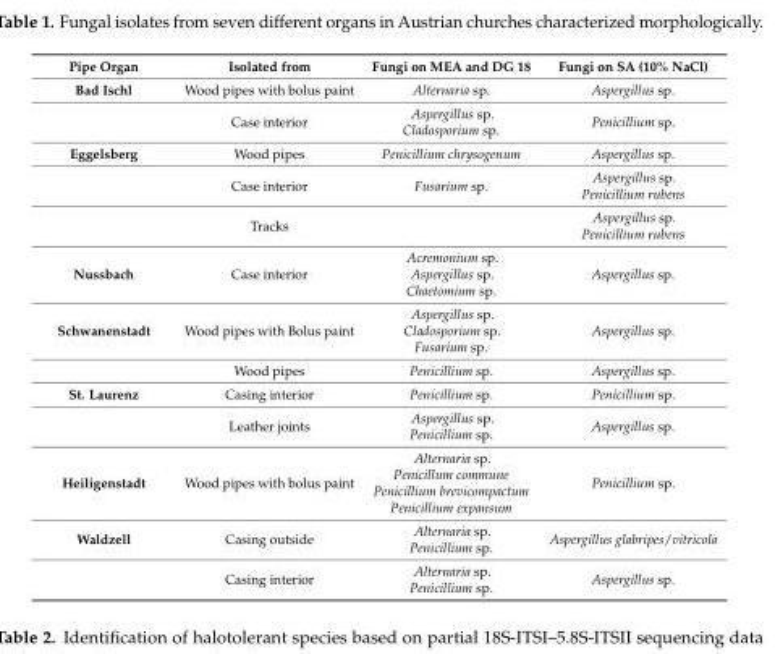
<table><thead><tr><td>Pipe Organ</td><td>Isolated from</td><td>Fungi on MEA and DG 18</td><td>Fungi on SA (10% NaCl)</td></tr></thead><tbody><tr><td rowspan="2">Bad Ischl</td><td>Wood pipes with bolus paint</td><td>Alternaria sp.</td><td>Aspergillus sp.</td></tr><tr><td>Case interior</td><td>Aspergillus sp. Cladosporium sp.</td><td>Penicillium sp.</td></tr><tr><td rowspan="3">Eggelsberg</td><td>Wood pipes</td><td>Penicillium chrysogenum</td><td>Aspergillus sp.</td></tr><tr><td>Case interior</td><td>Fusarium sp.</td><td>Aspergillus sp. Penicillium rubens</td></tr><tr><td>Tracks</td><td></td><td>Aspergillus sp. Penicillium rubens</td></tr><tr><td>Nussbach</td><td>Case interior</td><td>Acremonium sp. Aspergillus sp. Chaetomium sp.</td><td>Aspergillus sp.</td></tr><tr><td rowspan="2">Schwanenstadt</td><td>Wood pipes with Bolus paint</td><td>Aspergillus sp. Cladosporium sp. Fusarium sp.</td><td>Aspergillus sp.</td></tr><tr><td>Wood pipes</td><td>Penicillium sp.</td><td>Aspergillus sp.</td></tr><tr><td rowspan="2">St. Laurenz</td><td>Casing interior</td><td>Penicillium sp.</td><td>Penicillium sp.</td></tr><tr><td>Leather joints</td><td>Aspergillus sp. Penicillium sp.</td><td>Aspergillus sp.</td></tr><tr><td>Heiligenstadt</td><td>Wood pipes with bolus paint</td><td>Alternaria sp. Penicillum commune Penicillium brevicompactum Penicillium expansum</td><td>Penicillium sp.</td></tr><tr><td rowspan="2">Waldzell</td><td>Casing outside</td><td>Alternaria sp. Penicillium sp.</td><td>Aspergillus glabripes/vitricola</td></tr><tr><td>Casing interior</td><td>Alternaria sp. Penicillium sp.</td><td>Aspergillus sp.</td></tr></tbody></table>